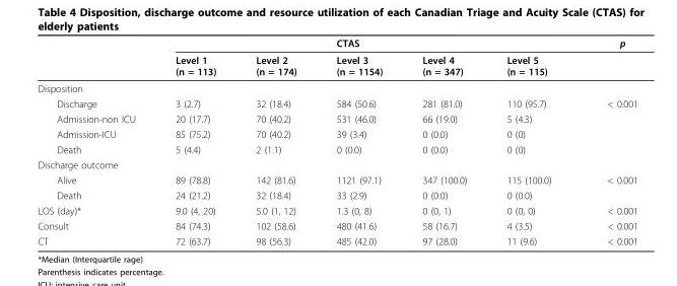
<table><thead><tr><td rowspan="2"></td><td rowspan="2">Level 1 (n = 113)</td><td rowspan="2">Level 2 (n = 174)</td><td rowspan="2">CTAS Level 3 (n = 1154)</td><td rowspan="2">Level 4 (n = 347)</td><td rowspan="2">Level 5 (n = 115)</td><td rowspan="2">p</td></tr><tr></tr></thead><tbody><tr><td colspan="7">Disposition</td></tr><tr><td>Discharge</td><td>3 (2.7)</td><td>32 (18.4)</td><td>584 (50.6)</td><td>281 (81.0)</td><td>110 (95.7)</td><td>&lt; 0.001</td></tr><tr><td>Admission-non ICU</td><td>20 (17.7)</td><td>70 (40.2)</td><td>531 (46.0)</td><td>66 (19.0)</td><td>5 (4.3)</td><td></td></tr><tr><td>Admission-ICU</td><td>85 (75.2)</td><td>70 (40.2)</td><td>39 (3.4)</td><td>0 (0.0)</td><td>0 (0)</td><td></td></tr><tr><td>Death</td><td>5 (4.4)</td><td>2 (1.1)</td><td>0 (0.0)</td><td>0 (0.0)</td><td>0 (0)</td><td></td></tr><tr><td colspan="7">Discharge outcome</td></tr><tr><td>Alive</td><td>89 (78.8)</td><td>142 (81.6)</td><td>1121 (97.1)</td><td>347 (100.0)</td><td>115 (100.0)</td><td>&lt; 0.001</td></tr><tr><td>Death</td><td>24 (21.2)</td><td>32 (18.4)</td><td>33 (2.9)</td><td>0 (0.0)</td><td>0 (0.0)</td><td></td></tr><tr><td>LOS (day)*</td><td>9.0 (4, 20)</td><td>5.0 (1, 12)</td><td>1.3 (0, 8)</td><td>0 (0, 1)</td><td>0 (0, 0)</td><td>&lt; 0.001</td></tr><tr><td>Consult</td><td>84 (74.3)</td><td>102 (58.6)</td><td>480 (41.6)</td><td>58 (16.7)</td><td>4 (3.5)</td><td>&lt; 0.001</td></tr><tr><td>CT</td><td>72 (63.7)</td><td>98 (56.3)</td><td>485 (42.0)</td><td>97 (28.0)</td><td>11 (9.6)</td><td>&lt; 0.001</td></tr></tbody></table>